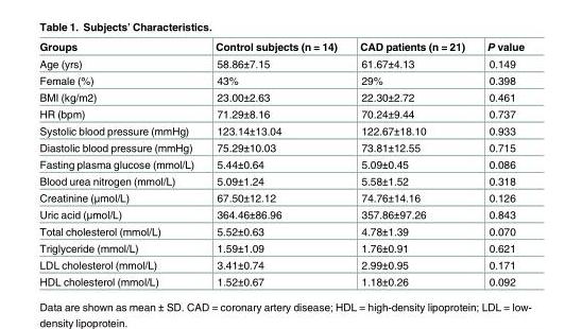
<table><thead><tr><td>Groups</td><td>Control subjects (n = 14)</td><td>CAD patients (n = 21)</td><td>P value</td></tr></thead><tbody><tr><td>Age (yrs)</td><td>58.86±7.15</td><td>61.67±4.13</td><td>0.149</td></tr><tr><td>Female (%)</td><td>43%</td><td>29%</td><td>0.398</td></tr><tr><td>BMI (kg/m2)</td><td>23.00±2.63</td><td>22.30±2.72</td><td>0.461</td></tr><tr><td>HR (bpm)</td><td>71.29±8.16</td><td>70.24±9.44</td><td>0.737</td></tr><tr><td>Systolic blood pressure (mmHg)</td><td>123.14±13.04</td><td>122.67±18.10</td><td>0.933</td></tr><tr><td>Diastolic blood pressure (mmHg)</td><td>75.29±10.03</td><td>73.81±12.55</td><td>0.715</td></tr><tr><td>Fasting plasma glucose (mmol/L)</td><td>5.44±0.64</td><td>5.09±0.45</td><td>0.086</td></tr><tr><td>Blood urea nitrogen (mmol/L)</td><td>5.09±1.24</td><td>5.58±1.52</td><td>0.318</td></tr><tr><td>Creatinine (μmol/L)</td><td>67.50±12.12</td><td>74.76±14.16</td><td>0.126</td></tr><tr><td>Uric acid (μmol/L)</td><td>364.46±86.96</td><td>357.86±97.26</td><td>0.843</td></tr><tr><td>Total cholesterol (mmol/L)</td><td>5.52±0.63</td><td>4.78±1.39</td><td>0.070</td></tr><tr><td>Triglyceride (mmol/L)</td><td>1.59±1.09</td><td>1.76±0.91</td><td>0.621</td></tr><tr><td>LDL cholesterol (mmol/L)</td><td>3.41±0.74</td><td>2.99±0.95</td><td>0.171</td></tr><tr><td>HDL cholesterol (mmol/L)</td><td>1.52±0.67</td><td>1.18±0.26</td><td>0.092</td></tr></tbody></table>